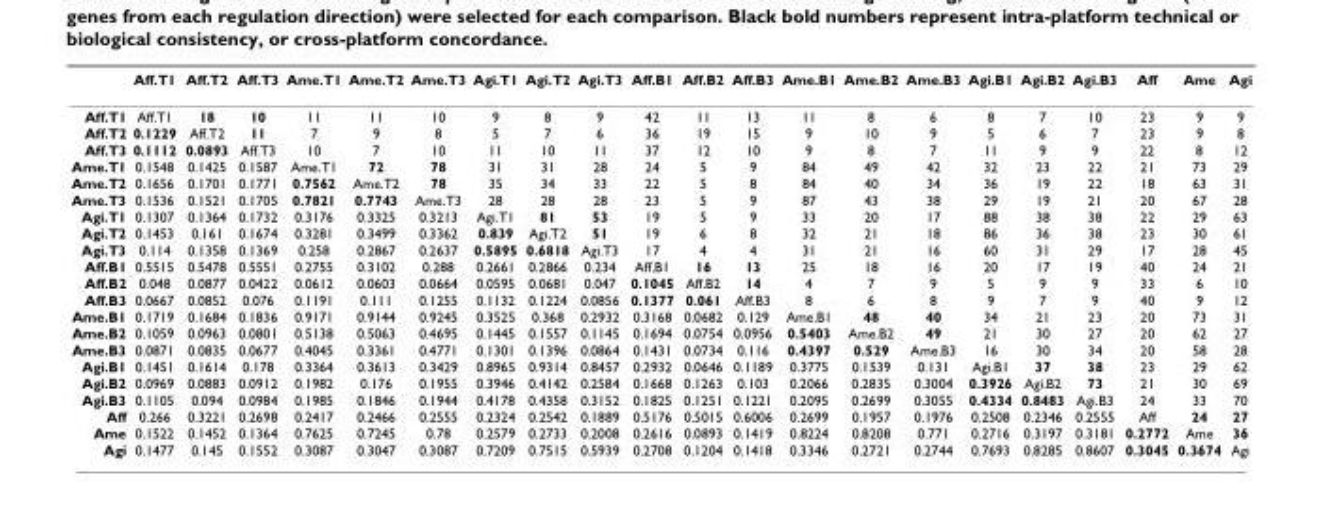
<table><thead><tr><td></td><td>Aff.T1</td><td>Aff.T2</td><td>Aff.T3</td><td>Ame.T1</td><td>Ame.T2</td><td>Ame.T3</td><td>Agi.T1</td><td>Agi.T2</td><td>Agi.T3</td><td>Aff.B1</td><td>Aff.B2</td><td>Aff.B3</td><td>Ame.B1</td><td>Ame.B2</td><td>Ame.B3</td><td>Agi.B1</td><td>Agi.B2</td><td>Agi.B3</td><td>Aff</td><td>Ame</td><td>Agi</td></tr></thead><tbody><tr><td>Aff.T1</td><td>Aff.T1</td><td>18</td><td>10</td><td>11</td><td>11</td><td>10</td><td>9</td><td>8</td><td>9</td><td>42</td><td>11</td><td>13</td><td>11</td><td>8</td><td>6</td><td>8</td><td>7</td><td>10</td><td>23</td><td>9</td><td>9</td></tr><tr><td>Aff.T2</td><td>0.1229</td><td>Aff.T2</td><td>11</td><td>7</td><td>9</td><td>8</td><td>5</td><td>7</td><td>6</td><td>36</td><td>19</td><td>15</td><td>9</td><td>10</td><td>9</td><td>5</td><td>6</td><td>7</td><td>23</td><td>9</td><td>8</td></tr><tr><td>Aff.T3</td><td>0.1112</td><td>0.0893</td><td>Aff.T3</td><td>10</td><td>7</td><td>10</td><td>11</td><td>10</td><td>11</td><td>37</td><td>12</td><td>10</td><td>9</td><td>8</td><td>7</td><td>11</td><td>9</td><td>9</td><td>22</td><td>8</td><td>12</td></tr><tr><td>Ame.T1</td><td>0.1548</td><td>0.1425</td><td>0.1587</td><td>Ame.T1</td><td>72</td><td>78</td><td>31</td><td>31</td><td>28</td><td>24</td><td>5</td><td>9</td><td>84</td><td>49</td><td>42</td><td>32</td><td>23</td><td>22</td><td>21</td><td>73</td><td>29</td></tr><tr><td>Ame.T2</td><td>0.1656</td><td>0.1701</td><td>0.1771</td><td>0.7562</td><td>Ame.T2</td><td>78</td><td>35</td><td>34</td><td>33</td><td>22</td><td>5</td><td>8</td><td>84</td><td>40</td><td>34</td><td>36</td><td>19</td><td>22</td><td>18</td><td>63</td><td>31</td></tr><tr><td>Ame.T3</td><td>0.1536</td><td>0.1521</td><td>0.1705</td><td>0.7821</td><td>0.7743</td><td>Ame.T3</td><td>28</td><td>28</td><td>28</td><td>23</td><td>5</td><td>9</td><td>87</td><td>43</td><td>38</td><td>29</td><td>19</td><td>21</td><td>20</td><td>67</td><td>28</td></tr><tr><td>Agi.T1</td><td>0.1307</td><td>0.1364</td><td>0.1732</td><td>0.3176</td><td>0.3325</td><td>0.3213</td><td>Agi.T1</td><td>81</td><td>53</td><td>19</td><td>5</td><td>9</td><td>33</td><td>20</td><td>17</td><td>88</td><td>38</td><td>38</td><td>22</td><td>29</td><td>63</td></tr><tr><td>Agi.T2</td><td>0.1453</td><td>0.161</td><td>0.1674</td><td>0.3281</td><td>0.3499</td><td>0.3362</td><td>0.839</td><td>Agi.T2</td><td>51</td><td>19</td><td>6</td><td>8</td><td>32</td><td>21</td><td>18</td><td>86</td><td>36</td><td>38</td><td>23</td><td>30</td><td>61</td></tr><tr><td>Agi.T3</td><td>0.114</td><td>0.1358</td><td>0.1369</td><td>0.258</td><td>0.2867</td><td>0.2637</td><td>0.5895</td><td>0.6818</td><td>Agi.T3</td><td>17</td><td>4</td><td>4</td><td>31</td><td>21</td><td>16</td><td>60</td><td>31</td><td>29</td><td>17</td><td>28</td><td>45</td></tr><tr><td>Aff.B1</td><td>0.5515</td><td>0.5478</td><td>0.5551</td><td>0.2755</td><td>0.3102</td><td>0.288</td><td>0.2661</td><td>0.2866</td><td>0.234</td><td>Aff.B1</td><td>16</td><td>13</td><td>25</td><td>18</td><td>16</td><td>20</td><td>17</td><td>19</td><td>40</td><td>24</td><td>21</td></tr><tr><td>Aff.B2</td><td>0.048</td><td>0.0877</td><td>0.0422</td><td>0.0612</td><td>0.0603</td><td>0.0664</td><td>0.0595</td><td>0.0681</td><td>0.047</td><td>0.1045</td><td>Aff.B2</td><td>14</td><td>4</td><td>7</td><td>9</td><td>5</td><td>9</td><td>9</td><td>33</td><td>6</td><td>10</td></tr><tr><td>Aff.B3</td><td>0.0667</td><td>0.0852</td><td>0.076</td><td>0.1191</td><td>0.111</td><td>0.1255</td><td>0.1132</td><td>0.1224</td><td>0.0856</td><td>0.1377</td><td>0.061</td><td>Aff.B3</td><td>8</td><td>6</td><td>8</td><td>9</td><td>7</td><td>9</td><td>40</td><td>9</td><td>12</td></tr><tr><td>Ame.B1</td><td>0.1719</td><td>0.1684</td><td>0.1836</td><td>0.9171</td><td>0.9144</td><td>0.9245</td><td>0.3525</td><td>0.368</td><td>0.2932</td><td>0.3168</td><td>0.0682</td><td>0.129</td><td>Ame.B1</td><td>48</td><td>40</td><td>34</td><td>21</td><td>23</td><td>20</td><td>73</td><td>31</td></tr><tr><td>Ame.B2</td><td>0.1059</td><td>0.0963</td><td>0.0801</td><td>0.5138</td><td>0.5063</td><td>0.4695</td><td>0.1445</td><td>0.1557</td><td>0.1145</td><td>0.1694</td><td>0.0754</td><td>0.0956</td><td>0.5403</td><td>Ame.B2</td><td>49</td><td>21</td><td>30</td><td>27</td><td>20</td><td>62</td><td>27</td></tr><tr><td>Ame.B3</td><td>0.0871</td><td>0.0835</td><td>0.0677</td><td>0.4045</td><td>0.3361</td><td>0.4771</td><td>0.1301</td><td>0.1396</td><td>0.0864</td><td>0.1431</td><td>0.0734</td><td>0.116</td><td>0.4397</td><td>0.529</td><td>Ame.B3</td><td>16</td><td>30</td><td>34</td><td>20</td><td>58</td><td>28</td></tr><tr><td>Agi.B1</td><td>0.1451</td><td>0.1614</td><td>0.178</td><td>0.3364</td><td>0.3613</td><td>0.3429</td><td>0.8965</td><td>0.9314</td><td>0.8457</td><td>0.2932</td><td>0.0646</td><td>0.1189</td><td>0.3775</td><td>0.1539</td><td>0.131</td><td>Agi.B1</td><td>37</td><td>38</td><td>23</td><td>29</td><td>62</td></tr><tr><td>Agi.B2</td><td>0.0969</td><td>0.0883</td><td>0.0912</td><td>0.1982</td><td>0.176</td><td>0.1955</td><td>0.3946</td><td>0.4142</td><td>0.2584</td><td>0.1668</td><td>0.1263</td><td>0.103</td><td>0.2066</td><td>0.2835</td><td>0.3004</td><td>0.3926</td><td>Agi.B2</td><td>73</td><td>21</td><td>30</td><td>69</td></tr><tr><td>Agi.B3</td><td>0.1105</td><td>0.094</td><td>0.0984</td><td>0.1985</td><td>0.1846</td><td>0.1944</td><td>0.4178</td><td>0.4358</td><td>0.3152</td><td>0.1825</td><td>0.1251</td><td>0.1221</td><td>0.2095</td><td>0.2699</td><td>0.3055</td><td>0.4334</td><td>0.8483</td><td>Agi.B3</td><td>24</td><td>33</td><td>70</td></tr><tr><td>Aff</td><td>0.266</td><td>0.3221</td><td>0.2698</td><td>0.2417</td><td>0.2466</td><td>0.2555</td><td>0.2324</td><td>0.2542</td><td>0.1889</td><td>0.5176</td><td>0.5015</td><td>0.6006</td><td>0.2699</td><td>0.1957</td><td>0.1976</td><td>0.2508</td><td>0.2346</td><td>0.2555</td><td>Aff</td><td>24</td><td>27</td></tr><tr><td>Ame</td><td>0.1522</td><td>0.1452</td><td>0.1364</td><td>0.7625</td><td>0.7245</td><td>0.78</td><td>0.2579</td><td>0.2733</td><td>0.2008</td><td>0.2616</td><td>0.0893</td><td>0.1419</td><td>0.8224</td><td>0.8208</td><td>0.771</td><td>0.2716</td><td>0.3197</td><td>0.3181</td><td>0.2772</td><td>Ame</td><td>36</td></tr><tr><td>Agi</td><td>0.1477</td><td>0.145</td><td>0.1552</td><td>0.3087</td><td>0.3047</td><td>0.3087</td><td>0.7209</td><td>0.7515</td><td>0.5939</td><td>0.2708</td><td>0.1204</td><td>0.1418</td><td>0.3346</td><td>0.2721</td><td>0.2744</td><td>0.7693</td><td>0.8285</td><td>0.8607</td><td>0.3045</td><td>0.3674</td><td>Agi</td></tr></tbody></table>